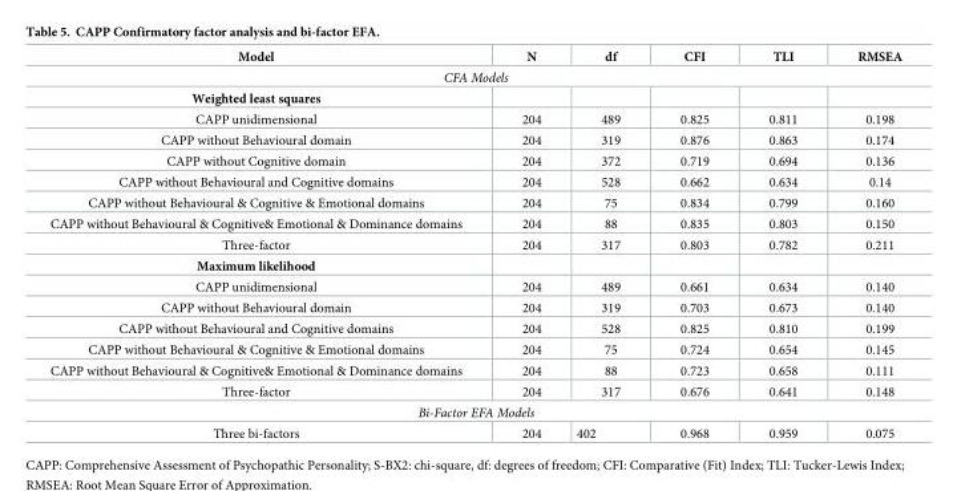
<table><thead><tr><td>Model</td><td>N</td><td>df</td><td>CFI</td><td>TLI</td><td>RMSEA</td></tr></thead><tbody><tr><td colspan="6">CFA Models</td></tr><tr><td colspan="6">Weighted least squares</td></tr><tr><td>CAPP unidimensional</td><td>204</td><td>489</td><td>0.825</td><td>0.811</td><td>0.198</td></tr><tr><td>CAPP without Behavioural domain</td><td>204</td><td>319</td><td>0.876</td><td>0.863</td><td>0.174</td></tr><tr><td>CAPP without Cognitive domain</td><td>204</td><td>372</td><td>0.719</td><td>0.694</td><td>0.136</td></tr><tr><td>CAPP without Behavioural and Cognitive domains</td><td>204</td><td>528</td><td>0.662</td><td>0.634</td><td>0.14</td></tr><tr><td>CAPP without Behavioural &amp; Cognitive &amp; Emotional domains</td><td>204</td><td>75</td><td>0.834</td><td>0.799</td><td>0.160</td></tr><tr><td>CAPP without Behavioural &amp; Cognitive&amp; Emotional &amp; Dominance domains</td><td>204</td><td>88</td><td>0.835</td><td>0.803</td><td>0.150</td></tr><tr><td>Three-factor</td><td>204</td><td>317</td><td>0.803</td><td>0.782</td><td>0.211</td></tr><tr><td colspan="6">Maximum likelihood</td></tr><tr><td>CAPP unidimensional</td><td>204</td><td>489</td><td>0.661</td><td>0.634</td><td>0.140</td></tr><tr><td>CAPP without Behavioural domain</td><td>204</td><td>319</td><td>0.703</td><td>0.673</td><td>0.140</td></tr><tr><td>CAPP without Behavioural and Cognitive domains</td><td>204</td><td>528</td><td>0.825</td><td>0.810</td><td>0.199</td></tr><tr><td>CAPP without Behavioural &amp; Cognitive &amp; Emotional domains</td><td>204</td><td>75</td><td>0.724</td><td>0.654</td><td>0.145</td></tr><tr><td>CAPP without Behavioural &amp; Cognitive&amp; Emotional &amp; Dominance domains</td><td>204</td><td>88</td><td>0.723</td><td>0.658</td><td>0.111</td></tr><tr><td>Three-factor</td><td>204</td><td>317</td><td>0.676</td><td>0.641</td><td>0.148</td></tr><tr><td colspan="6">Bi-Factor EFA Models</td></tr><tr><td>Three bi-factors</td><td>204</td><td>402</td><td>0.968</td><td>0.959</td><td>0.075</td></tr></tbody></table>